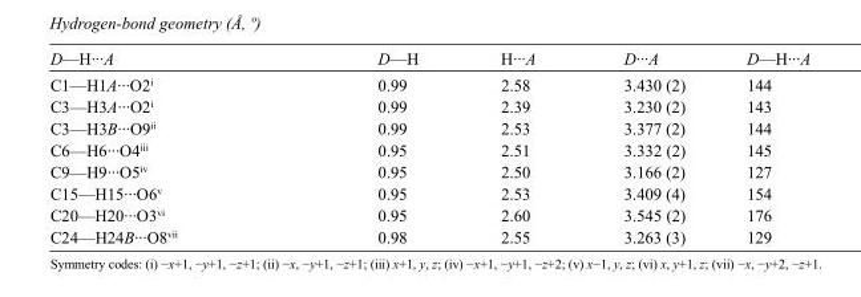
<table><tbody><tr><td>D—H···A</td><td>D—H</td><td>H···A</td><td>D···A</td><td>D—H···A</td></tr><tr><td>C1—H1A···O2<sup>i</sup></td><td>0.99</td><td>2.58</td><td>3.430 (2)</td><td>144</td></tr><tr><td>C3—H3A···O2<sup>i</sup></td><td>0.99</td><td>2.39</td><td>3.230 (2)</td><td>143</td></tr><tr><td>C3—H3B···O9<sup>ii</sup></td><td>0.99</td><td>2.53</td><td>3.377 (2)</td><td>144</td></tr><tr><td>C6—H6···O4<sup>iii</sup></td><td>0.95</td><td>2.51</td><td>3.332 (2)</td><td>145</td></tr><tr><td>C9—H9···O5<sup>iv</sup></td><td>0.95</td><td>2.50</td><td>3.166 (2)</td><td>127</td></tr><tr><td>C15—H15···O6<sup>v</sup></td><td>0.95</td><td>2.53</td><td>3.409 (4)</td><td>154</td></tr><tr><td>C20—H20···O3<sup>vi</sup></td><td>0.95</td><td>2.60</td><td>3.545 (2)</td><td>176</td></tr><tr><td>C24—H24B···O8<sup>vii</sup></td><td>0.98</td><td>2.55</td><td>3.263 (3)</td><td>129</td></tr></tbody></table>